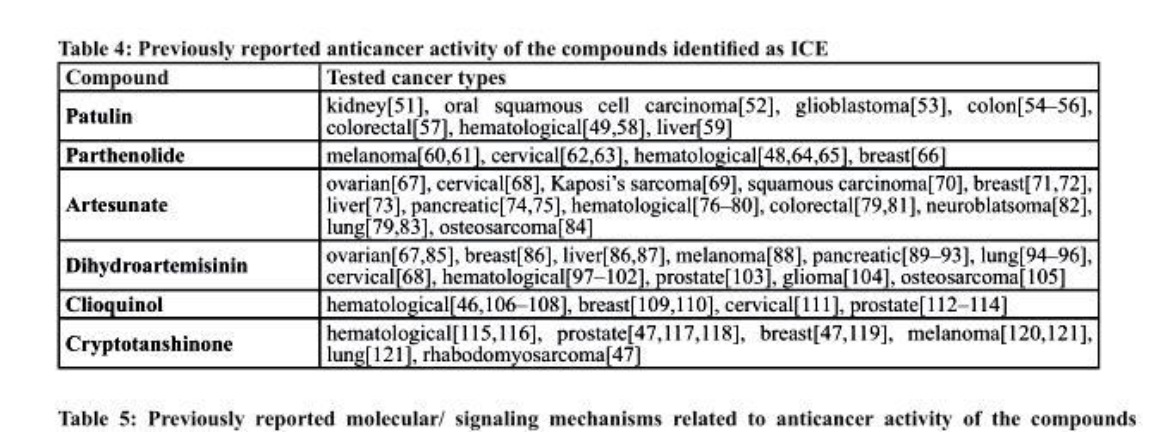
<table><thead><tr><td>compound</td><td>Tested cancer types</td></tr></thead><tbody><tr><td>Patulin</td><td>kidney[51], oral squamous cell carcinoma[52], glioblastoma[53], colon[54–56], colorectal[57], hematological[49,58], liver[59]</td></tr><tr><td>Parthenolide</td><td>melanoma[60,61], cervical[62,63], hematological[48,64,65], breast[66]</td></tr><tr><td>Artesunate</td><td>ovarian[67], cervical[68], Kaposi’s sarcoma[69], squamous carcinoma[70], breast[71,72], liver[73], pancreatic[74,75], hematological[76–80], colorectal[79,81], neuroblatsoma[82], lung[79,83], osteosarcoma[84]</td></tr><tr><td>Dihydroartemisinin</td><td>ovarian[67,85], breast[86], liver[86,87], melanoma[88], pancreatic[89–93], lung[94–96], cervical[68], hematological[97–102], prostate[103], glioma[104], osteosarcoma[105]</td></tr><tr><td>clioquinol</td><td>hematological[46,106–108], breast[109,110], cervical[111], prostate[112–114]</td></tr><tr><td>Cryptotanshinone</td><td>hematological[115,116], prostate[47,117,118], breast[47,119], melanoma[120,121], lung[121], rhabodomyosarcoma[47]</td></tr></tbody></table>